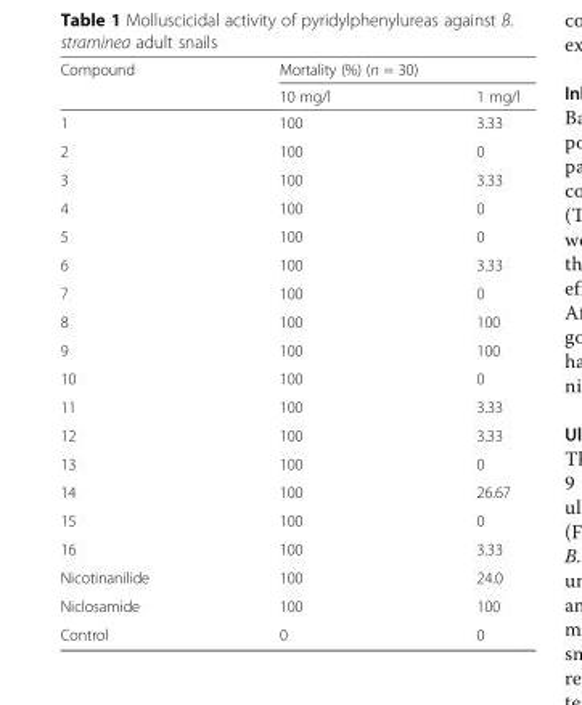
<table><thead><tr><td rowspan="2">Compound</td><td colspan="2">Mortality (%) (n = 30)</td></tr><tr><td>10 mg/l</td><td>1 mg/l</td></tr></thead><tbody><tr><td>1</td><td>100</td><td>3.33</td></tr><tr><td>2</td><td>100</td><td>0</td></tr><tr><td>3</td><td>100</td><td>3.33</td></tr><tr><td>4</td><td>100</td><td>0</td></tr><tr><td>5</td><td>100</td><td>0</td></tr><tr><td>6</td><td>100</td><td>3.33</td></tr><tr><td>7</td><td>100</td><td>0</td></tr><tr><td>8</td><td>100</td><td>100</td></tr><tr><td>9</td><td>100</td><td>100</td></tr><tr><td>10</td><td>100</td><td>0</td></tr><tr><td>11</td><td>100</td><td>3.33</td></tr><tr><td>12</td><td>100</td><td>3.33</td></tr><tr><td>13</td><td>100</td><td>0</td></tr><tr><td>14</td><td>100</td><td>26.67</td></tr><tr><td>15</td><td>100</td><td>0</td></tr><tr><td>16</td><td>100</td><td>3.33</td></tr><tr><td>Nicotinanilide</td><td>100</td><td>24.0</td></tr><tr><td>Niclosamide</td><td>100</td><td>100</td></tr><tr><td>Control</td><td>0</td><td>0</td></tr></tbody></table>